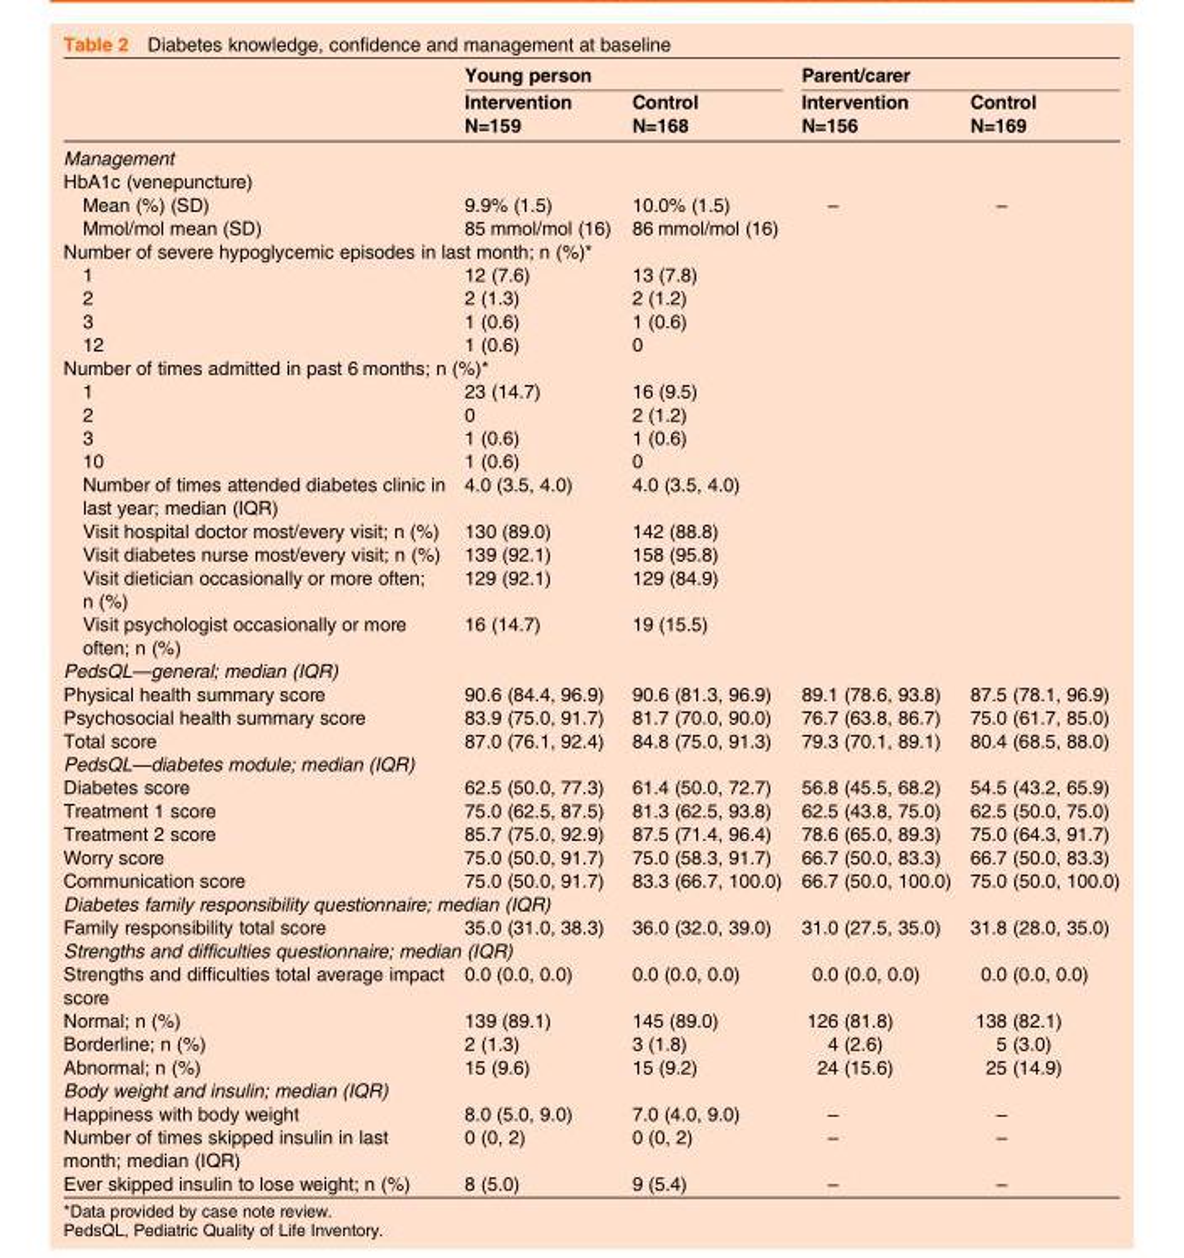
<table><thead><tr><td rowspan="2"></td><td colspan="2">Young person</td><td colspan="2">Parent/carer</td></tr><tr><td>Intervention N=159</td><td>Control N=168</td><td>Intervention N=156</td><td>Control N=169</td></tr></thead><tbody><tr><td colspan="5">Management</td></tr><tr><td colspan="5">HbA1c (venepuncture)</td></tr><tr><td>Mean (%) (SD)</td><td>9.9% (1.5)</td><td>10.0% (1.5)</td><td rowspan="2">–</td><td rowspan="2">–</td></tr><tr><td>Mmol/mol mean (SD)</td><td>85 mmol/mol (16)</td><td>86 mmol/mol (16)</td></tr><tr><td colspan="5">Number of severe hypoglycemic episodes in last month; n (%)*</td></tr><tr><td>1</td><td>12 (7.6)</td><td>13 (7.8)</td><td></td><td></td></tr><tr><td>2</td><td>2 (1.3)</td><td>2 (1.2)</td><td></td><td></td></tr><tr><td>3</td><td>1 (0.6)</td><td>1 (0.6)</td><td></td><td></td></tr><tr><td>12</td><td>1 (0.6)</td><td>0</td><td></td><td></td></tr><tr><td colspan="5">Number of times admitted in past 6 months; n (%)*</td></tr><tr><td>1</td><td>23 (14.7)</td><td>16 (9.5)</td><td></td><td></td></tr><tr><td>2</td><td>0</td><td>2 (1.2)</td><td></td><td></td></tr><tr><td>3</td><td>1 (0.6)</td><td>1 (0.6)</td><td></td><td></td></tr><tr><td>10</td><td>1 (0.6)</td><td>0</td><td></td><td></td></tr><tr><td>Number of times attended diabetes clinic in last year; median (IQR)</td><td>4.0 (3.5, 4.0)</td><td>4.0 (3.5, 4.0)</td><td></td><td></td></tr><tr><td>Visit hospital doctor most/every visit; n (%)</td><td>130 (89.0)</td><td>142 (88.8)</td><td></td><td></td></tr><tr><td>Visit diabetes nurse most/every visit; n (%)</td><td>139 (92.1)</td><td>158 (95.8)</td><td></td><td></td></tr><tr><td>Visit dietician occasionally or more often; n (%)</td><td>129 (92.1)</td><td>129 (84.9)</td><td></td><td></td></tr><tr><td>Visit psychologist occasionally or more often; n (%)</td><td>16 (14.7)</td><td>19 (15.5)</td><td></td><td></td></tr><tr><td colspan="5">PedsQL—general; median (IQR)</td></tr><tr><td>Physical health summary score</td><td>90.6 (84.4, 96.9)</td><td>90.6 (81.3, 96.9)</td><td>89.1 (78.6, 93.8)</td><td>87.5 (78.1, 96.9)</td></tr><tr><td>Psychosocial health summary score</td><td>83.9 (75.0, 91.7)</td><td>81.7 (70.0, 90.0)</td><td>76.7 (63.8, 86.7)</td><td>75.0 (61.7, 85.0)</td></tr><tr><td>Total score</td><td>87.0 (76.1, 92.4)</td><td>84.8 (75.0, 91.3)</td><td>79.3 (70.1, 89.1)</td><td>80.4 (68.5, 88.0)</td></tr><tr><td colspan="5">PedsQL—diabetes module; median (IQR)</td></tr><tr><td>Diabetes score</td><td>62.5 (50.0, 77.3)</td><td>61.4 (50.0, 72.7)</td><td>56.8 (45.5, 68.2)</td><td>54.5 (43.2, 65.9)</td></tr><tr><td>Treatment 1 score</td><td>75.0 (62.5, 87.5)</td><td>81.3 (62.5, 93.8)</td><td>62.5 (43.8, 75.0)</td><td>62.5 (50.0, 75.0)</td></tr><tr><td>Treatment 2 score</td><td>85.7 (75.0, 92.9)</td><td>87.5 (71.4, 96.4)</td><td>78.6 (65.0, 89.3)</td><td>75.0 (64.3, 91.7)</td></tr><tr><td>Worry score</td><td>75.0 (50.0, 91.7)</td><td>75.0 (58.3, 91.7)</td><td>66.7 (50.0, 83.3)</td><td>66.7 (50.0, 83.3)</td></tr><tr><td>Communication score</td><td>75.0 (50.0, 91.7)</td><td>83.3 (66.7, 100.0)</td><td>66.7 (50.0, 100.0)</td><td>75.0 (50.0, 100.0)</td></tr><tr><td colspan="5">Diabetes family responsibility questionnaire; median (IQR)</td></tr><tr><td>Family responsibility total score</td><td>35.0 (31.0, 38.3)</td><td>36.0 (32.0, 39.0)</td><td>31.0 (27.5, 35.0)</td><td>31.8 (28.0, 35.0)</td></tr><tr><td colspan="5">Strengths and difficulties questionnaire; median (IQR)</td></tr><tr><td>Strengths and difficulties total average impact score</td><td>0.0 (0.0, 0.0)</td><td>0.0 (0.0, 0.0)</td><td>0.0 (0.0, 0.0)</td><td>0.0 (0.0, 0.0)</td></tr><tr><td>Normal; n (%)</td><td>139 (89.1)</td><td>145 (89.0)</td><td>126 (81.8)</td><td>138 (82.1)</td></tr><tr><td>Borderline; n (%)</td><td>2 (1.3)</td><td>3 (1.8)</td><td>4 (2.6)</td><td>5 (3.0)</td></tr><tr><td>Abnormal; n (%)</td><td>15 (9.6)</td><td>15 (9.2)</td><td>24 (15.6)</td><td>25 (14.9)</td></tr><tr><td colspan="5">Body weight and insulin; median (IQR)</td></tr><tr><td>Happiness with body weight</td><td>8.0 (5.0, 9.0)</td><td>7.0 (4.0, 9.0)</td><td>–</td><td>–</td></tr><tr><td>Number of times skipped insulin in last month; median (IQR)</td><td>0 (0, 2)</td><td>0 (0, 2)</td><td>–</td><td>–</td></tr><tr><td>Ever skipped insulin to lose weight; n (%)</td><td>8 (5.0)</td><td>9 (5.4)</td><td>–</td><td>–</td></tr></tbody></table>